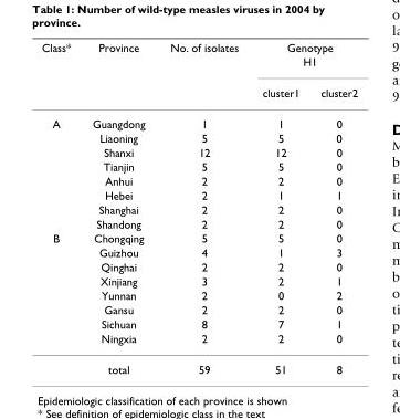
<table><thead><tr><td rowspan="3">Class*</td><td rowspan="3">Province</td><td rowspan="3">No. of isolates</td><td rowspan="2" colspan="2">Genotype H1</td></tr><tr></tr><tr><td>cluster1</td><td>cluster2</td></tr></thead><tbody><tr><td rowspan="8">A</td><td>Guangdong</td><td>1</td><td>1</td><td>0</td></tr><tr><td>Liaoning</td><td>5</td><td>5</td><td>0</td></tr><tr><td>Shanxi</td><td>12</td><td>12</td><td>0</td></tr><tr><td>Tianjin</td><td>5</td><td>5</td><td>0</td></tr><tr><td>Anhui</td><td>2</td><td>2</td><td>0</td></tr><tr><td>Hebei</td><td>2</td><td>1</td><td>1</td></tr><tr><td>Shanghai</td><td>2</td><td>2</td><td>0</td></tr><tr><td>Shandong</td><td>2</td><td>2</td><td>0</td></tr><tr><td rowspan="9">B</td><td>Chongqing</td><td>5</td><td>5</td><td>0</td></tr><tr><td>Guizhou</td><td>4</td><td>1</td><td>3</td></tr><tr><td>Qinghai</td><td>2</td><td>2</td><td>0</td></tr><tr><td>Xinjiang</td><td>3</td><td>2</td><td>1</td></tr><tr><td>Yunnan</td><td>2</td><td>0</td><td>2</td></tr><tr><td>Gansu</td><td>2</td><td>2</td><td>0</td></tr><tr><td>Sichuan</td><td>8</td><td>7</td><td>1</td></tr><tr><td>Ningxia</td><td>2</td><td>2</td><td>0</td></tr><tr><td>total</td><td>59</td><td>51</td><td>8</td></tr></tbody></table>